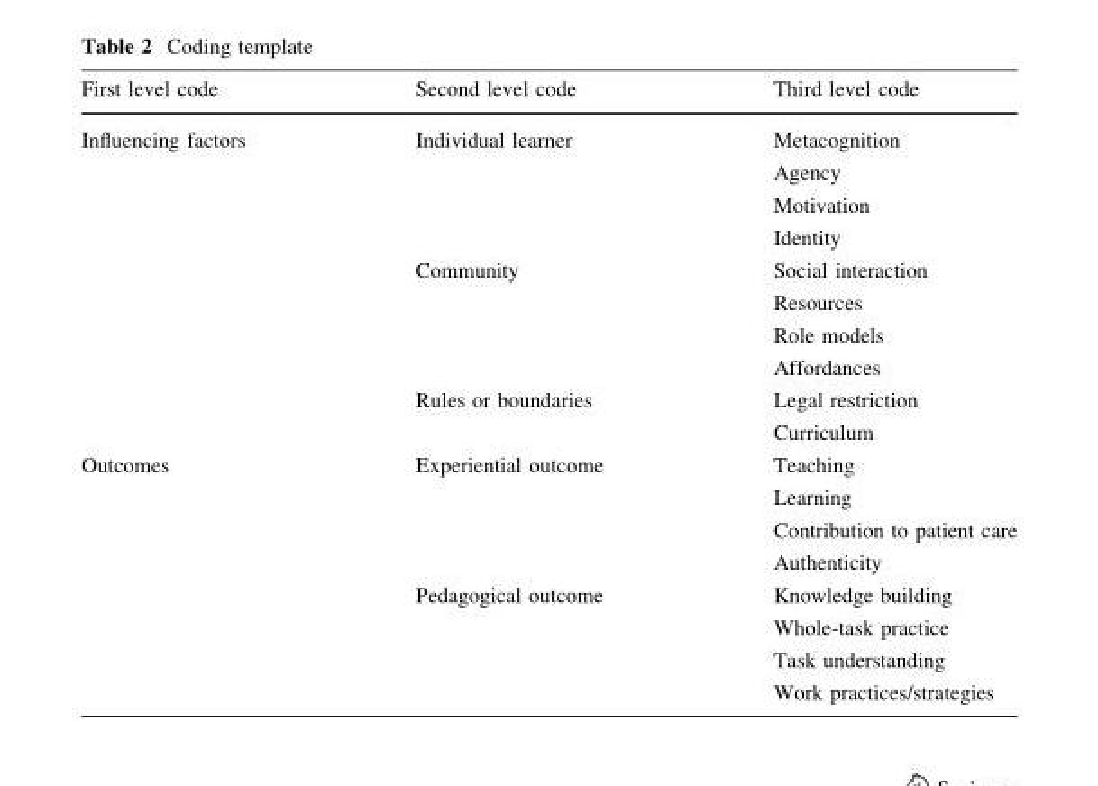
<table><thead><tr><td>First level code</td><td>Second level code</td><td>Third level code</td></tr></thead><tbody><tr><td rowspan="10">Influencing factors</td><td rowspan="4">Individual learner</td><td>Metacognition</td></tr><tr><td>Agency</td></tr><tr><td>Motivation</td></tr><tr><td>Identity</td></tr><tr><td rowspan="4">Community</td><td>Social interaction</td></tr><tr><td>Resources</td></tr><tr><td>Role models</td></tr><tr><td>Affordances</td></tr><tr><td rowspan="2">Rules or boundaries</td><td>Legal restriction</td></tr><tr><td>Curriculum</td></tr><tr><td rowspan="8">Outcomes</td><td rowspan="4">Experiential outcome</td><td>Teaching</td></tr><tr><td>Learning</td></tr><tr><td>Contribution to patient care</td></tr><tr><td>Authenticity</td></tr><tr><td rowspan="4">Pedagogical outcome</td><td>Knowledge building</td></tr><tr><td>Whole-task practice</td></tr><tr><td>Task understanding</td></tr><tr><td>Work practices/strategies</td></tr></tbody></table>